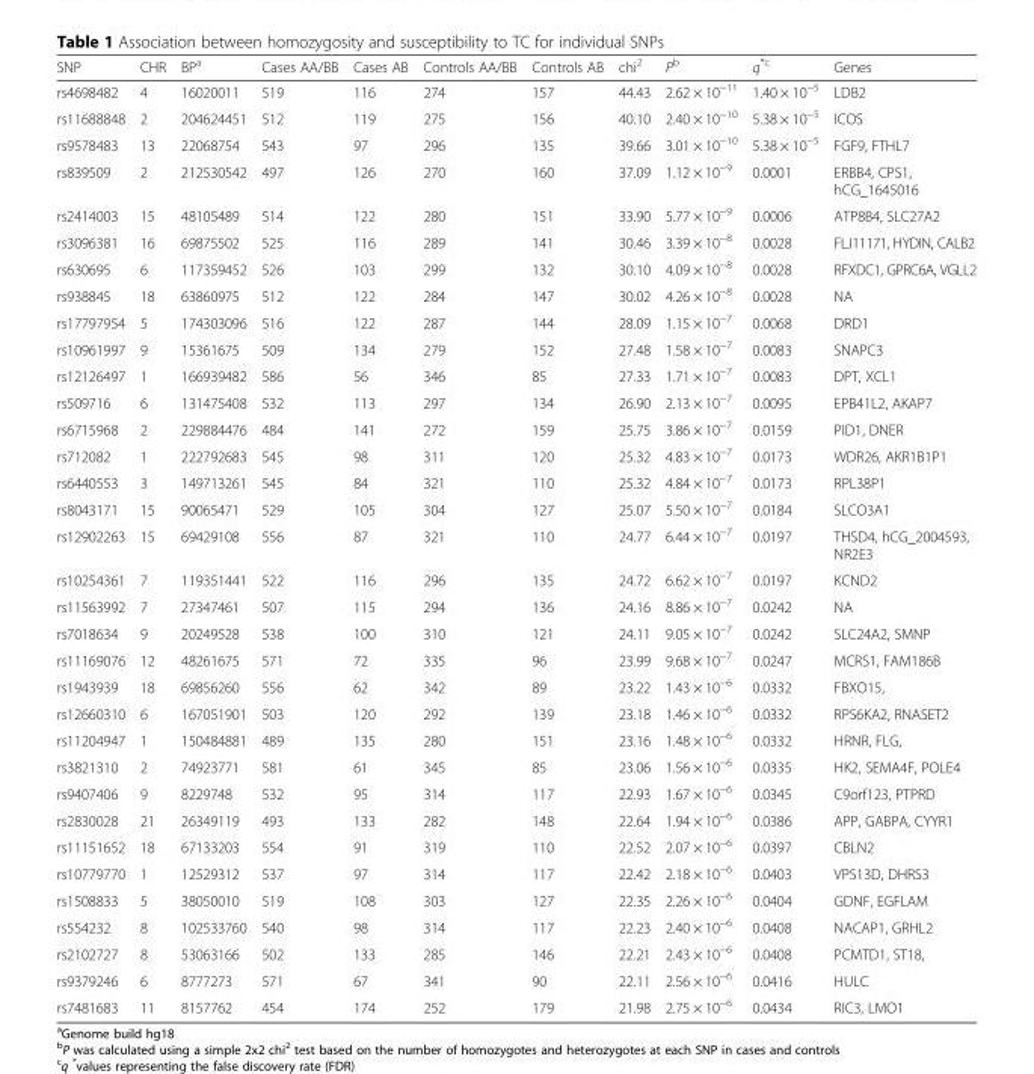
<table><thead><tr><td>SNP</td><td>CHR</td><td>BP<sup>a</sup></td><td>Cases AA/BB</td><td>Cases AB</td><td>Controls AA/BB</td><td>Controls AB</td><td>chi<sup>2</sup></td><td>P<sup>b</sup></td><td>q<sup>*c</sup></td><td>Genes</td></tr></thead><tbody><tr><td>rs4698482</td><td>4</td><td>16020011</td><td>519</td><td>116</td><td>274</td><td>157</td><td>44.43</td><td>2.62 × 10<sup>−11</sup></td><td>1.40 × 10<sup>−5</sup></td><td>LDB2</td></tr><tr><td>rs11688848</td><td>2</td><td>204624451</td><td>512</td><td>119</td><td>275</td><td>156</td><td>40.10</td><td>2.40 × 10<sup>−10</sup></td><td>5.38 × 10<sup>−5</sup></td><td>ICOS</td></tr><tr><td>rs9578483</td><td>13</td><td>22068754</td><td>543</td><td>97</td><td>296</td><td>135</td><td>39.66</td><td>3.01 × 10<sup>−10</sup></td><td>5.38 × 10<sup>−5</sup></td><td>FGF9, FTHL7</td></tr><tr><td>rs839509</td><td>2</td><td>212530542</td><td>497</td><td>126</td><td>270</td><td>160</td><td>37.09</td><td>1.12 × 10<sup>−9</sup></td><td>0.0001</td><td>ERBB4, CPS1, hCG_1645016</td></tr><tr><td>rs2414003</td><td>15</td><td>48105489</td><td>514</td><td>122</td><td>280</td><td>151</td><td>33.90</td><td>5.77 × 10<sup>−9</sup></td><td>0.0006</td><td>ATP8B4, SLC27A2</td></tr><tr><td>rs3096381</td><td>16</td><td>69875502</td><td>525</td><td>116</td><td>289</td><td>141</td><td>30.46</td><td>3.39 × 10<sup>−8</sup></td><td>0.0028</td><td>FLJ11171, HYDIN, CALB2</td></tr><tr><td>rs630695</td><td>6</td><td>117359452</td><td>526</td><td>103</td><td>299</td><td>132</td><td>30.10</td><td>4.09 × 10<sup>−8</sup></td><td>0.0028</td><td>RFXDC1, GPRC6A, VGLL2</td></tr><tr><td>rs938845</td><td>18</td><td>63860975</td><td>512</td><td>122</td><td>284</td><td>147</td><td>30.02</td><td>4.26 × 10<sup>−8</sup></td><td>0.0028</td><td>NA</td></tr><tr><td>rs17797954</td><td>5</td><td>174303096</td><td>516</td><td>122</td><td>287</td><td>144</td><td>28.09</td><td>1.15 × 10<sup>−7</sup></td><td>0.0068</td><td>DRD1</td></tr><tr><td>rs10961997</td><td>9</td><td>15361675</td><td>509</td><td>134</td><td>279</td><td>152</td><td>27.48</td><td>1.58 × 10<sup>−7</sup></td><td>0.0083</td><td>SNAPC3</td></tr><tr><td>rs12126497</td><td>1</td><td>166939482</td><td>586</td><td>56</td><td>346</td><td>85</td><td>27.33</td><td>1.71 × 10<sup>−7</sup></td><td>0.0083</td><td>DPT, XCL1</td></tr><tr><td>rs509716</td><td>6</td><td>131475408</td><td>532</td><td>113</td><td>297</td><td>134</td><td>26.90</td><td>2.13 × 10<sup>−7</sup></td><td>0.0095</td><td>EPB41L2, AKAP7</td></tr><tr><td>rs6715968</td><td>2</td><td>229884476</td><td>484</td><td>141</td><td>272</td><td>159</td><td>25.75</td><td>3.86 × 10<sup>−7</sup></td><td>0.0159</td><td>PID1, DNER</td></tr><tr><td>rs712082</td><td>1</td><td>222792683</td><td>545</td><td>98</td><td>311</td><td>120</td><td>25.32</td><td>4.83 × 10<sup>−7</sup></td><td>0.0173</td><td>WDR26, AKR1B1P1</td></tr><tr><td>rs6440553</td><td>3</td><td>149713261</td><td>545</td><td>84</td><td>321</td><td>110</td><td>25.32</td><td>4.84 × 10<sup>−7</sup></td><td>0.0173</td><td>RPL38P1</td></tr><tr><td>rs8043171</td><td>15</td><td>90065471</td><td>529</td><td>105</td><td>304</td><td>127</td><td>25.07</td><td>5.50 × 10<sup>−7</sup></td><td>0.0184</td><td>SLCO3A1</td></tr><tr><td>rs12902263</td><td>15</td><td>69429108</td><td>556</td><td>87</td><td>321</td><td>110</td><td>24.77</td><td>6.44 × 10<sup>−7</sup></td><td>0.0197</td><td>THSD4, hCG_2004593, NR2E3</td></tr><tr><td>rs10254361</td><td>7</td><td>119351441</td><td>522</td><td>116</td><td>296</td><td>135</td><td>24.72</td><td>6.62 × 10<sup>−7</sup></td><td>0.0197</td><td>KCND2</td></tr><tr><td>rs11563992</td><td>7</td><td>27347461</td><td>507</td><td>115</td><td>294</td><td>136</td><td>24.16</td><td>8.86 × 10<sup>−7</sup></td><td>0.0242</td><td>NA</td></tr><tr><td>rs7018634</td><td>9</td><td>20249528</td><td>538</td><td>100</td><td>310</td><td>121</td><td>24.11</td><td>9.05 × 10<sup>−7</sup></td><td>0.0242</td><td>SLC24A2, SMNP</td></tr><tr><td>rs11169076</td><td>12</td><td>48261675</td><td>571</td><td>72</td><td>335</td><td>96</td><td>23.99</td><td>9.68 × 10<sup>−7</sup></td><td>0.0247</td><td>MCRS1, FAM186B</td></tr><tr><td>rs1943939</td><td>18</td><td>69856260</td><td>556</td><td>62</td><td>342</td><td>89</td><td>23.22</td><td>1.43 × 10<sup>−6</sup></td><td>0.0332</td><td>FBXO15,</td></tr><tr><td>rs12660310</td><td>6</td><td>167051901</td><td>503</td><td>120</td><td>292</td><td>139</td><td>23.18</td><td>1.46 × 10<sup>−6</sup></td><td>0.0332</td><td>RPS6KA2, RNASET2</td></tr><tr><td>rs11204947</td><td>1</td><td>150484881</td><td>489</td><td>135</td><td>280</td><td>151</td><td>23.16</td><td>1.48 × 10<sup>−6</sup></td><td>0.0332</td><td>HRNR, FLG,</td></tr><tr><td>rs3821310</td><td>2</td><td>74923771</td><td>581</td><td>61</td><td>345</td><td>85</td><td>23.06</td><td>1.56 × 10<sup>−6</sup></td><td>0.0335</td><td>HK2, SEMA4F, POLE4</td></tr><tr><td>rs9407406</td><td>9</td><td>8229748</td><td>532</td><td>95</td><td>314</td><td>117</td><td>22.93</td><td>1.67 × 10<sup>−6</sup></td><td>0.0345</td><td>C9orf123, PTPRD</td></tr><tr><td>rs2830028</td><td>21</td><td>26349119</td><td>493</td><td>133</td><td>282</td><td>148</td><td>22.64</td><td>1.94 × 10<sup>−6</sup></td><td>0.0386</td><td>APP, GABPA, CYYR1</td></tr><tr><td>rs11151652</td><td>18</td><td>67133203</td><td>554</td><td>91</td><td>319</td><td>110</td><td>22.52</td><td>2.07 × 10<sup>−6</sup></td><td>0.0397</td><td>CBLN2</td></tr><tr><td>rs10779770</td><td>1</td><td>12529312</td><td>537</td><td>97</td><td>314</td><td>117</td><td>22.42</td><td>2.18 × 10<sup>−6</sup></td><td>0.0403</td><td>VPS13D, DHRS3</td></tr><tr><td>rs1508833</td><td>5</td><td>38050010</td><td>519</td><td>108</td><td>303</td><td>127</td><td>22.35</td><td>2.26 × 10<sup>−6</sup></td><td>0.0404</td><td>GDNF, EGFLAM</td></tr><tr><td>rs554232</td><td>8</td><td>102533760</td><td>540</td><td>98</td><td>314</td><td>117</td><td>22.23</td><td>2.40 × 10<sup>−6</sup></td><td>0.0408</td><td>NACAP1, GRHL2</td></tr><tr><td>rs2102727</td><td>8</td><td>53063166</td><td>502</td><td>133</td><td>285</td><td>146</td><td>22.21</td><td>2.43 × 10<sup>−6</sup></td><td>0.0408</td><td>PCMTD1, ST18,</td></tr><tr><td>rs9379246</td><td>6</td><td>8777273</td><td>571</td><td>67</td><td>341</td><td>90</td><td>22.11</td><td>2.56 × 10<sup>−6</sup></td><td>0.0416</td><td>HULC</td></tr><tr><td>rs7481683</td><td>11</td><td>8157762</td><td>454</td><td>174</td><td>252</td><td>179</td><td>21.98</td><td>2.75 × 10<sup>−6</sup></td><td>0.0434</td><td>RIC3, LMO1</td></tr></tbody></table>